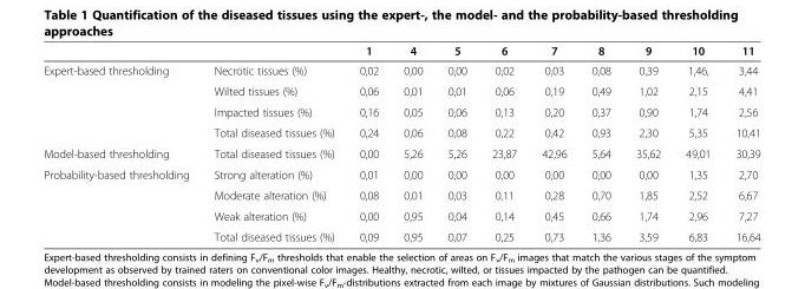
<table><thead><tr><td></td><td></td><td>1</td><td>4</td><td>5</td><td>6</td><td>7</td><td>8</td><td>9</td><td>10</td><td>11</td></tr></thead><tbody><tr><td rowspan="4">Expert-based thresholding</td><td>Necrotic tissues (%)</td><td>0,02</td><td>0,00</td><td>0,00</td><td>0,02</td><td>0,03</td><td>0,08</td><td>0,39</td><td>1,46,</td><td>3,44</td></tr><tr><td>Wilted tissues (%)</td><td>0,06</td><td>0,01</td><td>0,01</td><td>0,06</td><td>0,19</td><td>0,49</td><td>1,02</td><td>2,15</td><td>4,41</td></tr><tr><td>Impacted tissues (%)</td><td>0,16</td><td>0,05</td><td>0,06</td><td>0,13</td><td>0,20</td><td>0,37</td><td>0,90</td><td>1,74</td><td>2,56</td></tr><tr><td>Total diseased tissues (%)</td><td>0,24</td><td>0,06</td><td>0,08</td><td>0,22</td><td>0,42</td><td>0,93</td><td>2,30</td><td>5,35</td><td>10,41</td></tr><tr><td>Model-based thresholding</td><td>Total diseased tissues (%)</td><td>0,00</td><td>5,26</td><td>5,26</td><td>23,87</td><td>42,96</td><td>5,64</td><td>35,62</td><td>49,01</td><td>30,39</td></tr><tr><td rowspan="4">Probability-based thresholding</td><td>Strong alteration (%)</td><td>0,01</td><td>0,00</td><td>0,00</td><td>0,00</td><td>0,00</td><td>0,00</td><td>0,00</td><td>1,35</td><td>2,70</td></tr><tr><td>Moderate alteration (%)</td><td>0,08</td><td>0,01</td><td>0,03</td><td>0,11</td><td>0,28</td><td>0,70</td><td>1,85</td><td>2,52</td><td>6,67</td></tr><tr><td>Weak alteration (%)</td><td>0,00</td><td>0,95</td><td>0,04</td><td>0,14</td><td>0,45</td><td>0,66</td><td>1,74</td><td>2,96</td><td>7,27</td></tr><tr><td>Total diseased tissues (%)</td><td>0,09</td><td>0,95</td><td>0,07</td><td>0,25</td><td>0,73</td><td>1,36</td><td>3,59</td><td>6,83</td><td>16,64</td></tr></tbody></table>